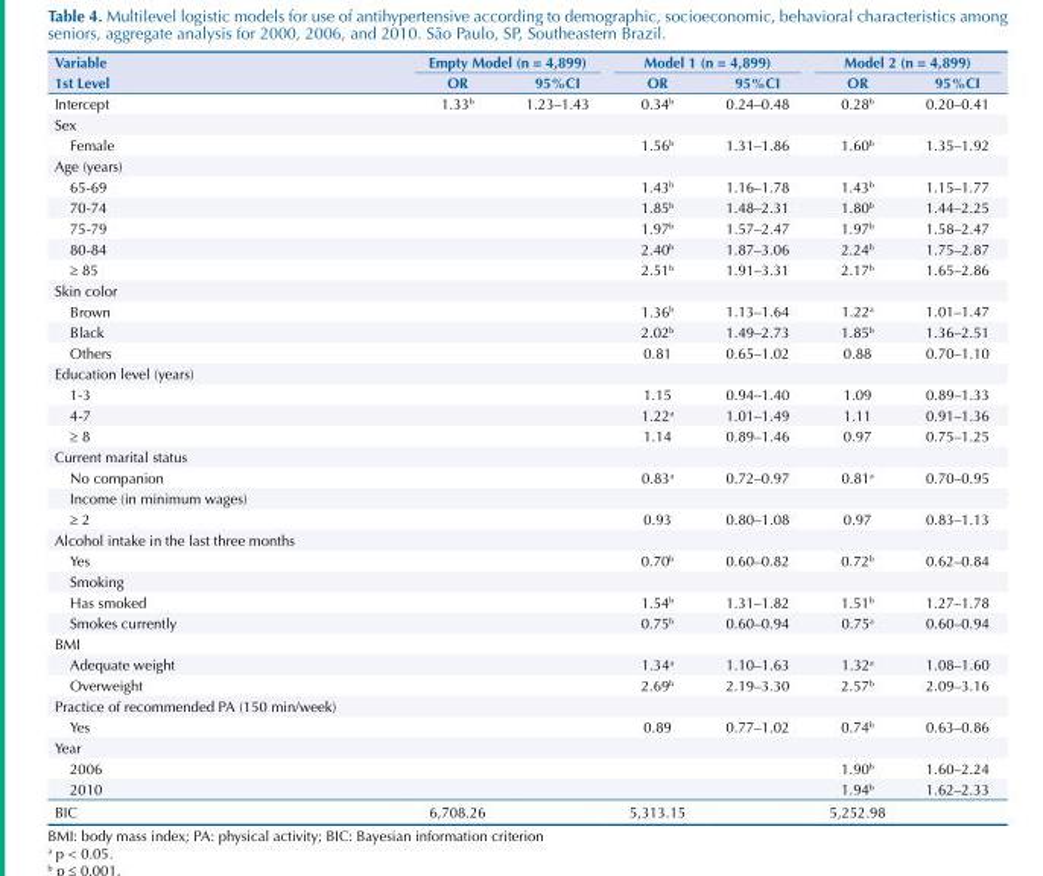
<table><thead><tr><td rowspan="2">Variable 1st Level</td><td colspan="2">Empty Model (n = 4,899)</td><td colspan="2">Model 1 (n = 4,899)</td><td colspan="2">Model 2 (n = 4,899)</td></tr><tr><td>OR</td><td>95%CI</td><td>OR</td><td>95%CI</td><td>OR</td><td>95%CI</td></tr></thead><tbody><tr><td>Intercept</td><td>1.33<sup>b</sup></td><td>1.23–1.43</td><td>0.34<sup>b</sup></td><td>0.24–0.48</td><td>0.28<sup>b</sup></td><td>0.20–0.41</td></tr><tr><td colspan="7">Sex</td></tr><tr><td>Female</td><td></td><td></td><td>1.56<sup>b</sup></td><td>1.31–1.86</td><td>1.60<sup>b</sup></td><td>1.35–1.92</td></tr><tr><td colspan="7">Age (years)</td></tr><tr><td>65-69</td><td></td><td></td><td>1.43<sup>b</sup></td><td>1.16–1.78</td><td>1.43<sup>b</sup></td><td>1.15–1.77</td></tr><tr><td>70-74</td><td></td><td></td><td>1.85<sup>b</sup></td><td>1.48–2.31</td><td>1.80<sup>b</sup></td><td>1.44–2.25</td></tr><tr><td>75-79</td><td></td><td></td><td>1.97<sup>b</sup></td><td>1.57–2.47</td><td>1.97<sup>b</sup></td><td>1.58–2.47</td></tr><tr><td>80-84</td><td></td><td></td><td>2.40<sup>b</sup></td><td>1.87–3.06</td><td>2.24<sup>b</sup></td><td>1.75–2.87</td></tr><tr><td>≥ 85</td><td></td><td></td><td>2.51<sup>b</sup></td><td>1.91–3.31</td><td>2.17<sup>b</sup></td><td>1.65–2.86</td></tr><tr><td colspan="7">Skin color</td></tr><tr><td>Brown</td><td></td><td></td><td>1.36<sup>b</sup></td><td>1.13–1.64</td><td>1.22<sup>a</sup></td><td>1.01–1.47</td></tr><tr><td>Black</td><td></td><td></td><td>2.02<sup>b</sup></td><td>1.49–2.73</td><td>1.85<sup>b</sup></td><td>1.36–2.51</td></tr><tr><td>Others</td><td></td><td></td><td>0.81</td><td>0.65–1.02</td><td>0.88</td><td>0.70–1.10</td></tr><tr><td colspan="7">Education level (years)</td></tr><tr><td>1-3</td><td></td><td></td><td>1.15</td><td>0.94–1.40</td><td>1.09</td><td>0.89–1.33</td></tr><tr><td>4-7</td><td></td><td></td><td>1.22<sup>a</sup></td><td>1.01–1.49</td><td>1.11</td><td>0.91–1.36</td></tr><tr><td>≥ 8</td><td></td><td></td><td>1.14</td><td>0.89–1.46</td><td>0.97</td><td>0.75–1.25</td></tr><tr><td colspan="7">Current marital status</td></tr><tr><td>No companion</td><td></td><td></td><td>0.83<sup>a</sup></td><td>0.72–0.97</td><td>0.81<sup>a</sup></td><td>0.70–0.95</td></tr><tr><td colspan="7">Income (in minimum wages)</td></tr><tr><td>≥ 2</td><td></td><td></td><td>0.93</td><td>0.80–1.08</td><td>0.97</td><td>0.83–1.13</td></tr><tr><td colspan="7">Alcohol intake in the last three months</td></tr><tr><td>Yes</td><td></td><td></td><td>0.70<sup>b</sup></td><td>0.60–0.82</td><td>0.72<sup>b</sup></td><td>0.62–0.84</td></tr><tr><td colspan="7">Smoking</td></tr><tr><td>Has smoked</td><td></td><td></td><td>1.54<sup>b</sup></td><td>1.31–1.82</td><td>1.51<sup>b</sup></td><td>1.27–1.78</td></tr><tr><td>Smokes currently</td><td></td><td></td><td>0.75<sup>b</sup></td><td>0.60–0.94</td><td>0.75<sup>a</sup></td><td>0.60–0.94</td></tr><tr><td colspan="7">BMI</td></tr><tr><td>Adequate weight</td><td></td><td></td><td>1.34<sup>a</sup></td><td>1.10–1.63</td><td>1.32<sup>a</sup></td><td>1.08–1.60</td></tr><tr><td>Overweight</td><td></td><td></td><td>2.69<sup>b</sup></td><td>2.19–3.30</td><td>2.57<sup>b</sup></td><td>2.09–3.16</td></tr><tr><td colspan="7">Practice of recommended PA (150 min/week)</td></tr><tr><td>Yes</td><td></td><td></td><td>0.89</td><td>0.77–1.02</td><td>0.74<sup>b</sup></td><td>0.63–0.86</td></tr><tr><td colspan="7">Year</td></tr><tr><td>2006</td><td></td><td></td><td></td><td></td><td>1.90<sup>b</sup></td><td>1.60–2.24</td></tr><tr><td>2010</td><td></td><td></td><td></td><td></td><td>1.94<sup>b</sup></td><td>1.62–2.33</td></tr><tr><td>BIC</td><td>6,708.26</td><td></td><td>5,313.15</td><td></td><td>5,252.98</td><td></td></tr></tbody></table>